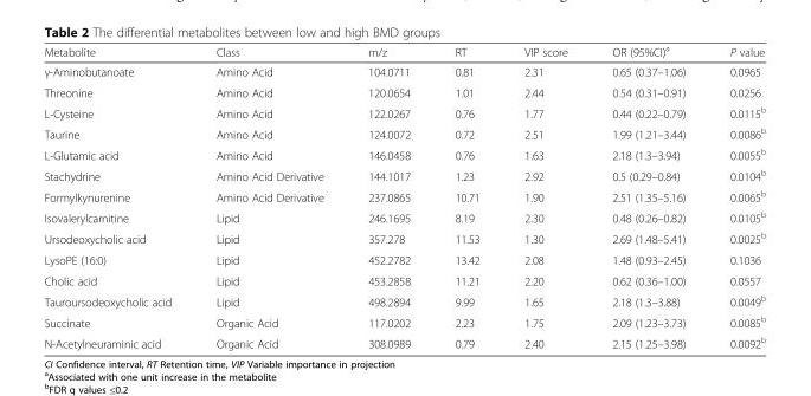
<table><thead><tr><td>Metabolite</td><td>Class</td><td>m/z</td><td>RT</td><td>VIP score</td><td>OR (95%CI)<sup>a</sup></td><td>P value</td></tr></thead><tbody><tr><td>γ-Aminobutanoate</td><td>Amino Acid</td><td>104.0711</td><td>0.81</td><td>2.31</td><td>0.65 (0.37–1.06)</td><td>0.0965</td></tr><tr><td>Threonine</td><td>Amino Acid</td><td>120.0654</td><td>1.01</td><td>2.44</td><td>0.54 (0.31–0.91)</td><td>0.0256</td></tr><tr><td>L-Cysteine</td><td>Amino Acid</td><td>122.0267</td><td>0.76</td><td>1.77</td><td>0.44 (0.22–0.79)</td><td>0.0115<sup>b</sup></td></tr><tr><td>Taurine</td><td>Amino Acid</td><td>124.0072</td><td>0.72</td><td>2.51</td><td>1.99 (1.21–3.44)</td><td>0.0086<sup>b</sup></td></tr><tr><td>L-Glutamic acid</td><td>Amino Acid</td><td>146.0458</td><td>0.76</td><td>1.63</td><td>2.18 (1.3–3.94)</td><td>0.0055<sup>b</sup></td></tr><tr><td>Stachydrine</td><td>Amino Acid Derivative</td><td>144.1017</td><td>1.23</td><td>2.92</td><td>0.5 (0.29–0.84)</td><td>0.0104<sup>b</sup></td></tr><tr><td>Formylkynurenine</td><td>Amino Acid Derivative</td><td>237.0865</td><td>10.71</td><td>1.90</td><td>2.51 (1.35–5.16)</td><td>0.0065<sup>b</sup></td></tr><tr><td>Isovalerylcarnitine</td><td>Lipid</td><td>246.1695</td><td>8.19</td><td>2.30</td><td>0.48 (0.26–0.82)</td><td>0.0105<sup>b</sup></td></tr><tr><td>Ursodeoxycholic acid</td><td>Lipid</td><td>357.278</td><td>11.53</td><td>1.30</td><td>2.69 (1.48–5.41)</td><td>0.0025<sup>b</sup></td></tr><tr><td>LysoPE (16:0)</td><td>Lipid</td><td>452.2782</td><td>13.42</td><td>2.08</td><td>1.48 (0.93–2.45)</td><td>0.1036</td></tr><tr><td>Cholic acid</td><td>Lipid</td><td>453.2858</td><td>11.21</td><td>2.20</td><td>0.62 (0.36–1.00)</td><td>0.0557</td></tr><tr><td>Tauroursodeoxycholic acid</td><td>Lipid</td><td>498.2894</td><td>9.99</td><td>1.65</td><td>2.18 (1.3–3.88)</td><td>0.0049<sup>b</sup></td></tr><tr><td>Succinate</td><td>Organic Acid</td><td>117.0202</td><td>2.23</td><td>1.75</td><td>2.09 (1.23–3.73)</td><td>0.0085<sup>b</sup></td></tr><tr><td>N-Acetylneuraminic acid</td><td>Organic Acid</td><td>308.0989</td><td>0.79</td><td>2.40</td><td>2.15 (1.25–3.98)</td><td>0.0092<sup>b</sup></td></tr></tbody></table>